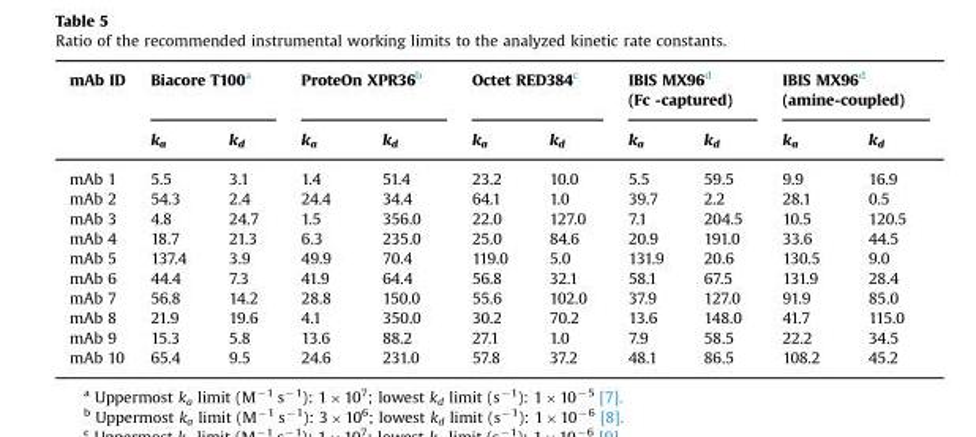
<table><thead><tr><td rowspan="3">mAb ID</td><td rowspan="2" colspan="2">Biacore T100<sup>a</sup></td><td rowspan="2" colspan="2">ProteOn XPR36<sup>b</sup></td><td rowspan="2" colspan="2">Octet RED384<sup>c</sup></td><td rowspan="2" colspan="2">IBIS MX96<sup>d</sup> (Fc -captured)</td><td rowspan="2" colspan="2">IBIS MX96<sup>d</sup> (amine-coupled)</td></tr><tr></tr><tr><td>k<sub>a</sub></td><td>k<sub>d</sub></td><td>k<sub>a</sub></td><td>k<sub>d</sub></td><td>k<sub>a</sub></td><td>k<sub>d</sub></td><td>k<sub>a</sub></td><td>k<sub>d</sub></td><td>k<sub>a</sub></td><td>k<sub>d</sub></td></tr></thead><tbody><tr><td>mAb 1</td><td>5.5</td><td>3.1</td><td>1.4</td><td>51.4</td><td>23.2</td><td>10.0</td><td>5.5</td><td>59.5</td><td>9.9</td><td>16.9</td></tr><tr><td>mAb 2</td><td>54.3</td><td>2.4</td><td>24.4</td><td>34.4</td><td>64.1</td><td>1.0</td><td>39.7</td><td>2.2</td><td>28.1</td><td>0.5</td></tr><tr><td>mAb 3</td><td>4.8</td><td>24.7</td><td>1.5</td><td>356.0</td><td>22.0</td><td>127.0</td><td>7.1</td><td>204.5</td><td>10.5</td><td>120.5</td></tr><tr><td>mAb 4</td><td>18.7</td><td>21.3</td><td>6.3</td><td>235.0</td><td>25.0</td><td>84.6</td><td>20.9</td><td>191.0</td><td>33.6</td><td>44.5</td></tr><tr><td>mAb 5</td><td>137.4</td><td>3.9</td><td>49.9</td><td>70.4</td><td>119.0</td><td>5.0</td><td>131.9</td><td>20.6</td><td>130.5</td><td>9.0</td></tr><tr><td>mAb 6</td><td>44.4</td><td>7.3</td><td>41.9</td><td>64.4</td><td>56.8</td><td>32.1</td><td>58.1</td><td>67.5</td><td>131.9</td><td>28.4</td></tr><tr><td>mAb 7</td><td>56.8</td><td>14.2</td><td>28.8</td><td>150.0</td><td>55.6</td><td>102.0</td><td>37.9</td><td>127.0</td><td>91.9</td><td>85.0</td></tr><tr><td>mAb 8</td><td>21.9</td><td>19.6</td><td>4.1</td><td>350.0</td><td>30.2</td><td>70.2</td><td>13.6</td><td>148.0</td><td>41.7</td><td>115.0</td></tr><tr><td>mAb 9</td><td>15.3</td><td>5.8</td><td>13.6</td><td>88.2</td><td>27.1</td><td>1.0</td><td>7.9</td><td>58.5</td><td>22.2</td><td>34.5</td></tr><tr><td>mAb 10</td><td>65.4</td><td>9.5</td><td>24.6</td><td>231.0</td><td>57.8</td><td>37.2</td><td>48.1</td><td>86.5</td><td>108.2</td><td>45.2</td></tr></tbody></table>